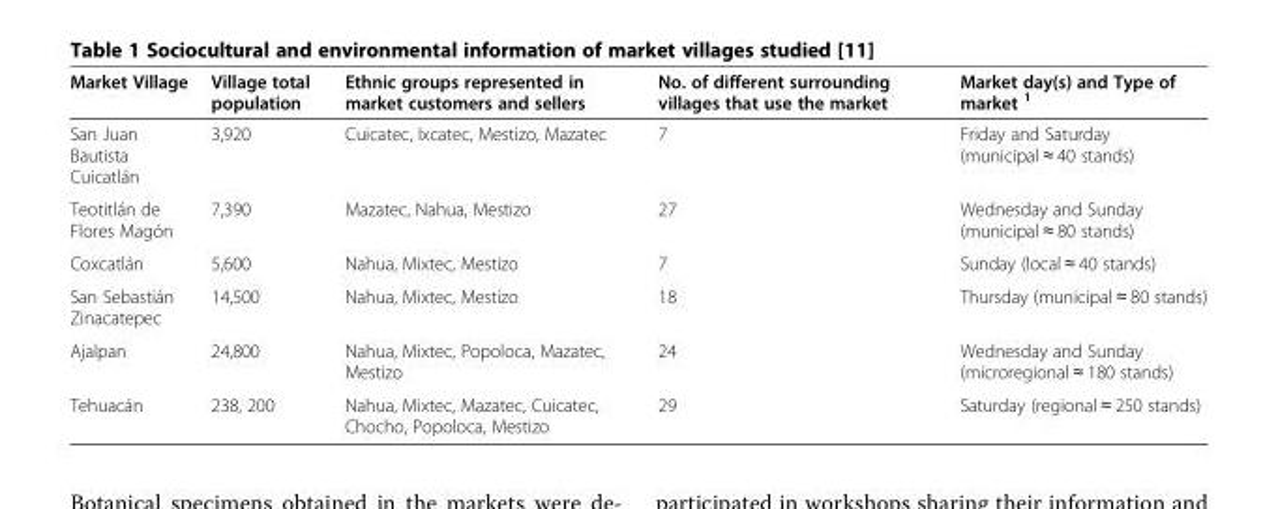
<table><thead><tr><td>Market Village</td><td>Village total population</td><td>Ethnic groups represented in market customers and sellers</td><td>No. of different surrounding villages that use the market</td><td>Market day(s) and Type of market <sup>1</sup></td></tr></thead><tbody><tr><td>San Juan Bautista Cuicatlán</td><td>3,920</td><td>Cuicatec, Ixcatec, Mestizo, Mazatec</td><td>7</td><td>Friday and Saturday (municipal ≈ 40 stands)</td></tr><tr><td>Teotitlán de Flores Magón</td><td>7,390</td><td>Mazatec, Nahua, Mestizo</td><td>27</td><td>Wednesday and Sunday (municipal ≈ 80 stands)</td></tr><tr><td>Coxcatlán</td><td>5,600</td><td>Nahua, Mixtec, Mestizo</td><td>7</td><td>Sunday (local ≈ 40 stands)</td></tr><tr><td>San Sebastián Zinacatepec</td><td>14,500</td><td>Nahua, Mixtec, Mestizo</td><td>18</td><td>Thursday (municipal ≈ 80 stands)</td></tr><tr><td>Ajalpan</td><td>24,800</td><td>Nahua, Mixtec, Popoloca, Mazatec, Mestizo</td><td>24</td><td>Wednesday and Sunday (microregional ≈ 180 stands)</td></tr><tr><td>Tehuacán</td><td>238, 200</td><td>Nahua, Mixtec, Mazatec, Cuicatec, Chocho, Popoloca, Mestizo</td><td>29</td><td>Saturday (regional ≈ 250 stands)</td></tr></tbody></table>